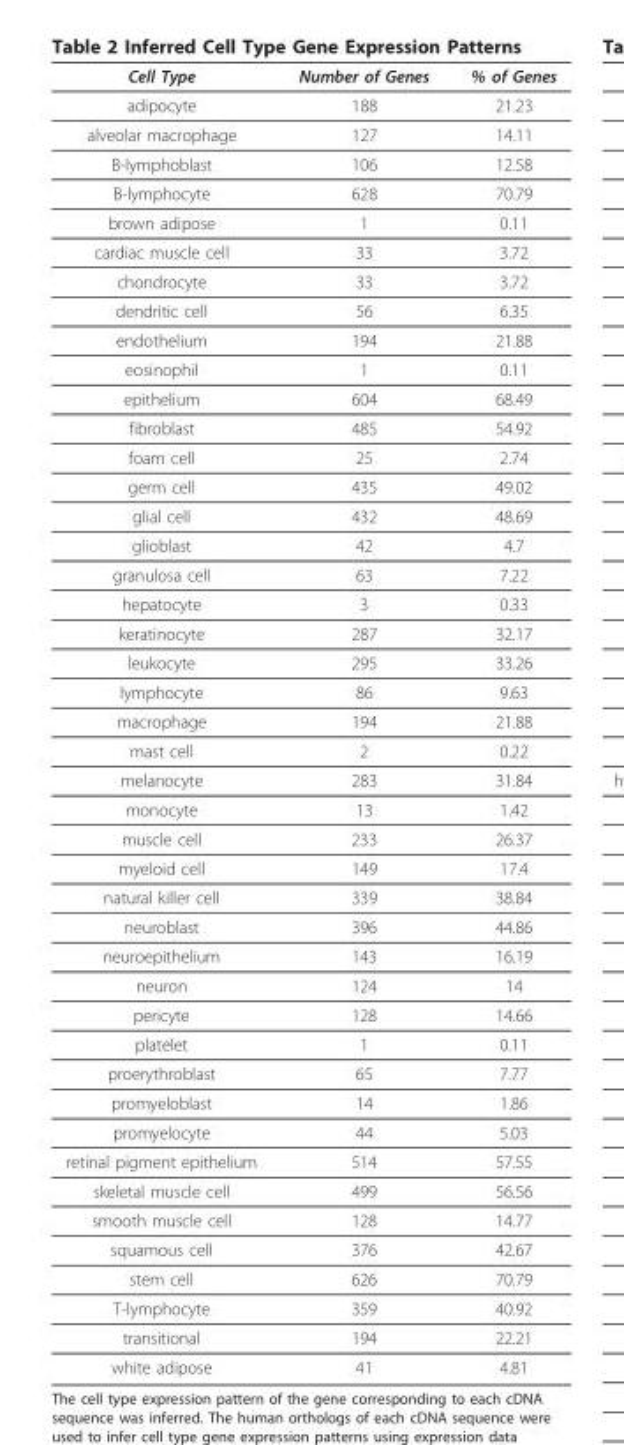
<table><thead><tr><td>Cell Type</td><td>Number of Genes</td><td>% of Genes</td></tr></thead><tbody><tr><td>adipocyte</td><td>188</td><td>21.23</td></tr><tr><td>alveolar macrophage</td><td>127</td><td>14.11</td></tr><tr><td>B-lymphoblast</td><td>106</td><td>12.58</td></tr><tr><td>B-lymphocyte</td><td>628</td><td>70.79</td></tr><tr><td>brown adipose</td><td>1</td><td>0.11</td></tr><tr><td>cardiac muscle cell</td><td>33</td><td>3.72</td></tr><tr><td>chondrocyte</td><td>33</td><td>3.72</td></tr><tr><td>dendritic cell</td><td>56</td><td>6.35</td></tr><tr><td>endothelium</td><td>194</td><td>21.88</td></tr><tr><td>eosinophil</td><td>1</td><td>0.11</td></tr><tr><td>epithelium</td><td>604</td><td>68.49</td></tr><tr><td>fibroblast</td><td>485</td><td>54.92</td></tr><tr><td>foam cell</td><td>25</td><td>2.74</td></tr><tr><td>germ cell</td><td>435</td><td>49.02</td></tr><tr><td>glial cell</td><td>432</td><td>48.69</td></tr><tr><td>glioblast</td><td>42</td><td>4.7</td></tr><tr><td>granulosa cell</td><td>63</td><td>7.22</td></tr><tr><td>hepatocyte</td><td>3</td><td>0.33</td></tr><tr><td>keratinocyte</td><td>287</td><td>32.17</td></tr><tr><td>leukocyte</td><td>295</td><td>33.26</td></tr><tr><td>lymphocyte</td><td>86</td><td>9.63</td></tr><tr><td>macrophage</td><td>194</td><td>21.88</td></tr><tr><td>mast cell</td><td>2</td><td>0.22</td></tr><tr><td>melanocyte</td><td>283</td><td>31.84</td></tr><tr><td>monocyte</td><td>13</td><td>1.42</td></tr><tr><td>muscle cell</td><td>233</td><td>26.37</td></tr><tr><td>myeloid cell</td><td>149</td><td>17.4</td></tr><tr><td>natural killer cell</td><td>339</td><td>38.84</td></tr><tr><td>neuroblast</td><td>396</td><td>44.86</td></tr><tr><td>neuroepithelium</td><td>143</td><td>16.19</td></tr><tr><td>neuron</td><td>124</td><td>14</td></tr><tr><td>pericyte</td><td>128</td><td>14.66</td></tr><tr><td>platelet</td><td>1</td><td>0.11</td></tr><tr><td>proerythroblast</td><td>65</td><td>7.77</td></tr><tr><td>promyeloblast</td><td>14</td><td>1.86</td></tr><tr><td>promyelocyte</td><td>44</td><td>5.03</td></tr><tr><td>retinal pigment epithelium</td><td>514</td><td>57.55</td></tr><tr><td>skeletal muscle cell</td><td>499</td><td>56.56</td></tr><tr><td>smooth muscle cell</td><td>128</td><td>14.77</td></tr><tr><td>squamous cell</td><td>376</td><td>42.67</td></tr><tr><td>stem cell</td><td>626</td><td>70.79</td></tr><tr><td>T-lymphocyte</td><td>359</td><td>40.92</td></tr><tr><td>transitional</td><td>194</td><td>22.21</td></tr><tr><td>white adipose</td><td>41</td><td>4.81</td></tr></tbody></table>